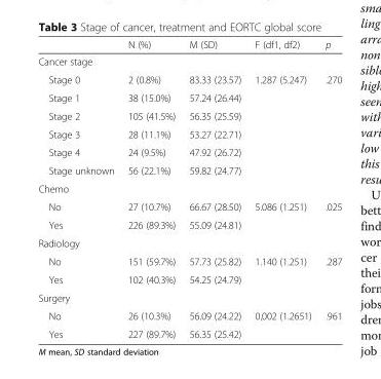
<table><thead><tr><td></td><td>N (%)</td><td>M (SD)</td><td>F (df1, df2)</td><td>p</td></tr></thead><tbody><tr><td colspan="5">Cancer stage</td></tr><tr><td>Stage 0</td><td>2 (0.8%)</td><td>83.33 (23.57)</td><td>1.287 (5.247)</td><td>.270</td></tr><tr><td>Stage 1</td><td>38 (15.0%)</td><td>57.24 (26.44)</td><td></td><td></td></tr><tr><td>Stage 2</td><td>105 (41.5%)</td><td>56.35 (25.59)</td><td></td><td></td></tr><tr><td>Stage 3</td><td>28 (11.1%)</td><td>53.27 (22.71)</td><td></td><td></td></tr><tr><td>Stage 4</td><td>24 (9.5%)</td><td>47.92 (26.72)</td><td></td><td></td></tr><tr><td>Stage unknown</td><td>56 (22.1%)</td><td>59.82 (24.77)</td><td></td><td></td></tr><tr><td colspan="5">Chemo</td></tr><tr><td>No</td><td>27 (10.7%)</td><td>66.67 (28.50)</td><td>5.086 (1.251)</td><td>.025</td></tr><tr><td>Yes</td><td>226 (89.3%)</td><td>55.09 (24.81)</td><td></td><td></td></tr><tr><td colspan="5">Radiology</td></tr><tr><td>No</td><td>151 (59.7%)</td><td>57.73 (25.82)</td><td>1.140 (1.251)</td><td>.287</td></tr><tr><td>Yes</td><td>102 (40.3%)</td><td>54.25 (24.79)</td><td></td><td></td></tr><tr><td colspan="5">Surgery</td></tr><tr><td>No</td><td>26 (10.3%)</td><td>56.09 (24.22)</td><td>0,002 (1.2651)</td><td>.961</td></tr><tr><td>Yes</td><td>227 (89.7%)</td><td>56.35 (25.42)</td><td></td><td></td></tr></tbody></table>